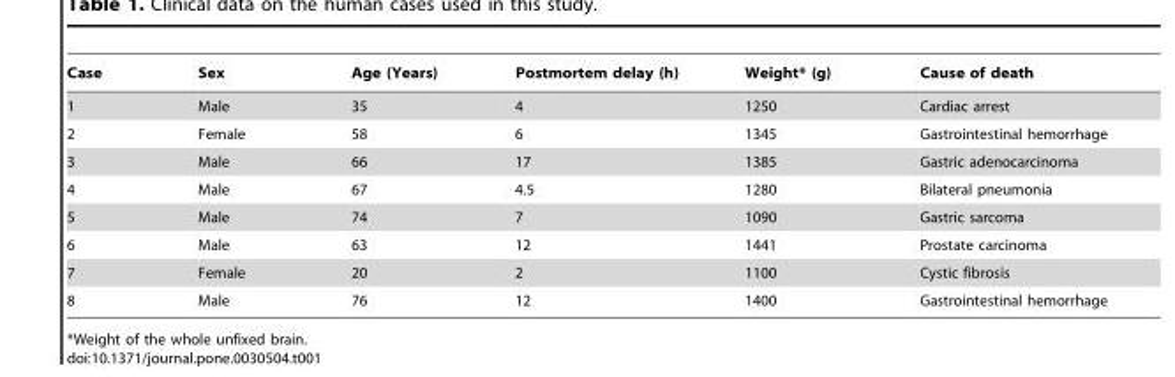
<table><thead><tr><td>Case</td><td>Sex</td><td>Age (Years)</td><td>Postmortem delay (h)</td><td>Weight* (g)</td><td>Cause of death</td></tr></thead><tbody><tr><td>1</td><td>Male</td><td>35</td><td>4</td><td>1250</td><td>Cardiac arrest</td></tr><tr><td>2</td><td>Female</td><td>58</td><td>6</td><td>1345</td><td>Gastrointestinal hemorrhage</td></tr><tr><td>3</td><td>Male</td><td>66</td><td>17</td><td>1385</td><td>Gastric adenocarcinoma</td></tr><tr><td>4</td><td>Male</td><td>67</td><td>4.5</td><td>1280</td><td>Bilateral pneumonia</td></tr><tr><td>5</td><td>Male</td><td>74</td><td>7</td><td>1090</td><td>Gastric sarcoma</td></tr><tr><td>6</td><td>Male</td><td>63</td><td>12</td><td>1441</td><td>Prostate carcinoma</td></tr><tr><td>7</td><td>Female</td><td>20</td><td>2</td><td>1100</td><td>Cystic fibrosis</td></tr><tr><td>8</td><td>Male</td><td>76</td><td>12</td><td>1400</td><td>Gastrointestinal hemorrhage</td></tr></tbody></table>